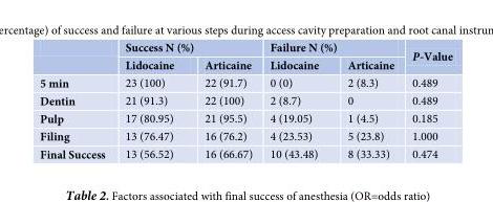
<table><thead><tr><td rowspan="2"></td><td colspan="2">Success N (%)</td><td colspan="2">Failure N (%)</td><td rowspan="2">P-Value</td></tr><tr><td>Lidocaine</td><td>Articaine</td><td>Lidocaine</td><td>Articaine</td></tr></thead><tbody><tr><td>5 min</td><td>23 (100)</td><td>22 (91.7)</td><td>0 (0)</td><td>2 (8.3)</td><td>0.489</td></tr><tr><td>Dentin</td><td>21 (91.3)</td><td>22 (100)</td><td>2 (8.7)</td><td>0</td><td>0.489</td></tr><tr><td>Pulp</td><td>17 (80.95)</td><td>21 (95.5)</td><td>4 (19.05)</td><td>1 (4.5)</td><td>0.185</td></tr><tr><td>Filing</td><td>13 (76.47)</td><td>16 (76.2)</td><td>4 (23.53)</td><td>5 (23.8)</td><td>1.000</td></tr><tr><td>Final Success</td><td>13 (56.52)</td><td>16 (66.67)</td><td>10 (43.48)</td><td>8 (33.33)</td><td>0.474</td></tr></tbody></table>